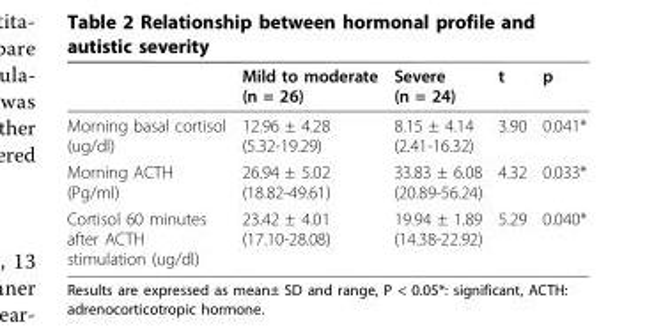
<table><thead><tr><td></td><td>Mild to moderate (n = 26)</td><td>Severe (n = 24)</td><td>t</td><td>p</td></tr></thead><tbody><tr><td>Morning basal cortisol (ug/dl)</td><td>12.96 ± 4.28 (5.32-19.29)</td><td>8.15 ± 4.14 (2.41-16.32)</td><td>3.90</td><td>0.041*</td></tr><tr><td>Morning ACTH (Pg/ml)</td><td>26.94 ± 5.02 (18.82-49.61)</td><td>33.83 ± 6.08 (20.89-56.24)</td><td>4.32</td><td>0.033*</td></tr><tr><td>Cortisol 60 minutes after ACTH stimulation (ug/dl)</td><td>23.42 ± 4.01 (17.10-28.08)</td><td>19.94 ± 1.89 (14.38-22.92)</td><td>5.29</td><td>0.040*</td></tr></tbody></table>